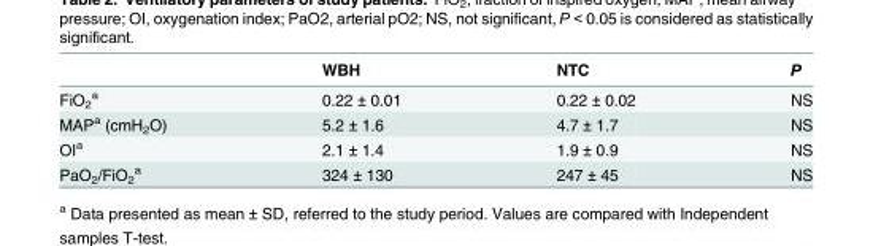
<table><thead><tr><td></td><td>WBH</td><td>NTC</td><td>P</td></tr></thead><tbody><tr><td>FiO<sub>2</sub> <sup>a</sup></td><td>0.22 ± 0.01</td><td>0.22 ± 0.02</td><td>NS</td></tr><tr><td>MAP<sup>a</sup> (cmH<sub>2</sub>O)</td><td>5.2 ± 1.6</td><td>4.7 ± 1.7</td><td>NS</td></tr><tr><td>OI<sup>a</sup></td><td>2.1 ± 1.4</td><td>1.9 ± 0.9</td><td>NS</td></tr><tr><td>PaO<sub>2</sub>/FiO<sub>2</sub> <sup>a</sup></td><td>324 ± 130</td><td>247 ± 45</td><td>NS</td></tr></tbody></table>